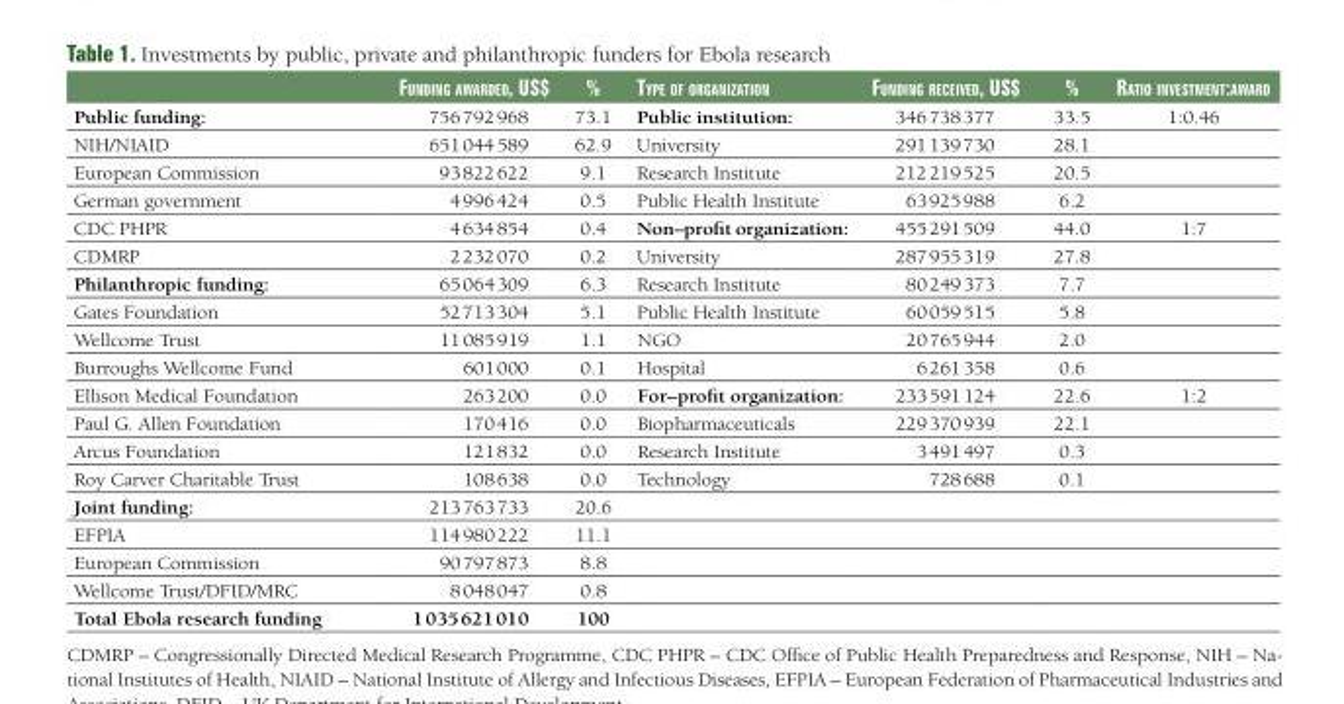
<table><thead><tr><td></td><td>Funding awarded, uS$</td><td>%</td><td>Type oF organizaTion</td><td>Funding received, uS$</td><td>%</td><td>raTio inveSTmenT:award</td></tr></thead><tbody><tr><td>Public funding:</td><td>756 792 968</td><td>73.1</td><td>Public institution:</td><td>346 738 377</td><td>33.5</td><td>1:0.46</td></tr><tr><td>NIH/NIAID</td><td>651 044 589</td><td>62.9</td><td>University</td><td>291 139 730</td><td>28.1</td><td></td></tr><tr><td>European Commission</td><td>93 822 622</td><td>9.1</td><td>Research Institute</td><td>212 219 525</td><td>20.5</td><td></td></tr><tr><td>German government</td><td>4 996 424</td><td>0.5</td><td>Public Health Institute</td><td>63 925 988</td><td>6.2</td><td></td></tr><tr><td>CDC PHPR</td><td>4 634 854</td><td>0.4</td><td>Non–profit organization:</td><td>455 291 509</td><td>44.0</td><td>1:7</td></tr><tr><td>CDMRP</td><td>2 232 070</td><td>0.2</td><td>University</td><td>287 955 319</td><td>27.8</td><td></td></tr><tr><td>Philanthropic funding:</td><td>65 064 309</td><td>6.3</td><td>Research Institute</td><td>80 249 373</td><td>7.7</td><td></td></tr><tr><td>Gates Foundation</td><td>52 713 304</td><td>5.1</td><td>Public Health Institute</td><td>60 059 515</td><td>5.8</td><td></td></tr><tr><td>Wellcome Trust</td><td>11 085 919</td><td>1.1</td><td>NGO</td><td>20 765 944</td><td>2.0</td><td></td></tr><tr><td>Burroughs Wellcome Fund</td><td>601 000</td><td>0.1</td><td>Hospital</td><td>6 261 358</td><td>0.6</td><td></td></tr><tr><td>Ellison Medical Foundation</td><td>263 200</td><td>0.0</td><td>For–profit organization:</td><td>233 591 124</td><td>22.6</td><td>1:2</td></tr><tr><td>Paul G. Allen Foundation</td><td>170 416</td><td>0.0</td><td>Biopharmaceuticals</td><td>229 370 939</td><td>22.1</td><td></td></tr><tr><td>Arcus Foundation</td><td>121 832</td><td>0.0</td><td>Research Institute</td><td>3 491 497</td><td>0.3</td><td></td></tr><tr><td>Roy Carver Charitable Trust</td><td>108 638</td><td>0.0</td><td>Technology</td><td>728 688</td><td>0.1</td><td></td></tr><tr><td>Joint funding:</td><td>213 763 733</td><td>20.6</td><td></td><td></td><td></td><td></td></tr><tr><td>EFPIA</td><td>114 980 222</td><td>11.1</td><td></td><td></td><td></td><td></td></tr><tr><td>European Commission</td><td>90 797 873</td><td>8.8</td><td></td><td></td><td></td><td></td></tr><tr><td>Wellcome Trust/DFID/MRC</td><td>8 048 047</td><td>0.8</td><td></td><td></td><td></td><td></td></tr><tr><td>Total Ebola research funding</td><td>1 035 621 010</td><td>100</td><td></td><td></td><td></td><td></td></tr></tbody></table>